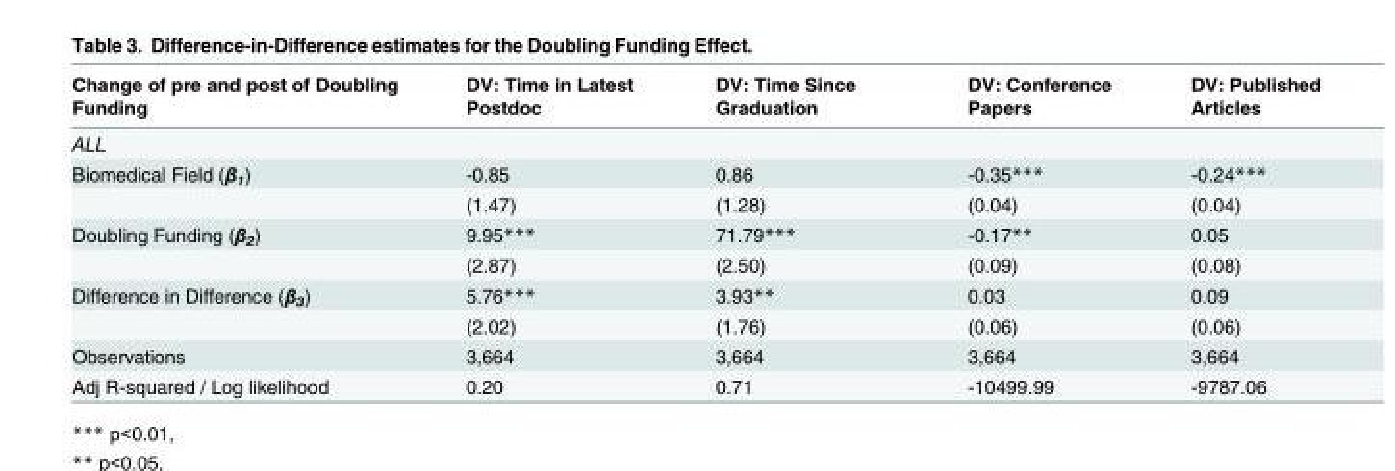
<table><thead><tr><td>Change of pre and post of Doubling Funding</td><td>DV: Time in Latest Postdoc</td><td>DV: Time Since Graduation</td><td>DV: Conference Papers</td><td>DV: Published Articles</td></tr></thead><tbody><tr><td colspan="5">ALL</td></tr><tr><td rowspan="2">Biomedical Field (β<sub>1</sub>)</td><td>-0.85</td><td>0.86</td><td>-0.35***</td><td>-0.24***</td></tr><tr><td>(1.47)</td><td>(1.28)</td><td>(0.04)</td><td>(0.04)</td></tr><tr><td rowspan="2">Doubling Funding (β<sub>2</sub>)</td><td>9.95***</td><td>71.79***</td><td>-0.17**</td><td>0.05</td></tr><tr><td>(2.87)</td><td>(2.50)</td><td>(0.09)</td><td>(0.08)</td></tr><tr><td rowspan="2">Difference in Difference (β<sub>3</sub>)</td><td>5.76***</td><td>3.93**</td><td>0.03</td><td>0.09</td></tr><tr><td>(2.02)</td><td>(1.76)</td><td>(0.06)</td><td>(0.06)</td></tr><tr><td>Observations</td><td>3,664</td><td>3,664</td><td>3,664</td><td>3,664</td></tr><tr><td>Adj R-squared / Log likelihood</td><td>0.20</td><td>0.71</td><td>-10499.99</td><td>-9787.06</td></tr></tbody></table>